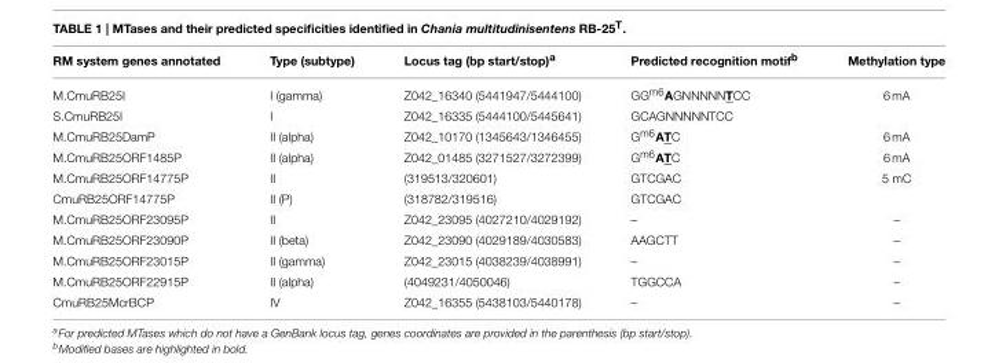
<table><thead><tr><td>RM system genes annotated</td><td>Type (subtype)</td><td>Locus tag (bp start/stop)<sup>a</sup></td><td>Predicted recognition motif<sup>b</sup></td><td>Methylation type</td></tr></thead><tbody><tr><td>M.CmuRB25I</td><td>I (gamma)</td><td>Z042_16340 (5441947/5444100)</td><td>GG<sup>m6</sup>AGNNNNNTCC</td><td>6 mA</td></tr><tr><td>S.CmuRB25I</td><td>I</td><td>Z042_16335 (5444100/5445641)</td><td>GCAGNNNNNTCC</td><td></td></tr><tr><td>M.CmuRB25DamP</td><td>II (alpha)</td><td>Z042_10170 (1345643/1346455)</td><td>G<sup>m6</sup>ATC</td><td>6 mA</td></tr><tr><td>M.CmuRB25ORF1485P</td><td>II (alpha)</td><td>Z042_01485 (3271527/3272399)</td><td>G<sup>m6</sup>ATC</td><td>6 mA</td></tr><tr><td>M.CmuRB25ORF14775P</td><td>II</td><td>(319513/320601)</td><td>GTCGAC</td><td>5 mC</td></tr><tr><td>CmuRB25ORF14775P</td><td>II (P)</td><td>(318782/319516)</td><td>GTCGAC</td><td></td></tr><tr><td>M.CmuRB25ORF23095P</td><td>II</td><td>Z042_23095 (4027210/4029192)</td><td>–</td><td>–</td></tr><tr><td>M.CmuRB25ORF23090P</td><td>II (beta)</td><td>Z042_23090 (4029189/4030583)</td><td>AAGCTT</td><td>–</td></tr><tr><td>M.CmuRB25ORF23015P</td><td>II (gamma)</td><td>Z042_23015 (4038239/4038991)</td><td>–</td><td>–</td></tr><tr><td>M.CmuRB25ORF22915P</td><td>II (alpha)</td><td>(4049231/4050046)</td><td>TGGCCA</td><td>–</td></tr><tr><td>CmuRB25McrBCP</td><td>IV</td><td>Z042_16355 (5438103/5440178)</td><td>–</td><td>–</td></tr></tbody></table>